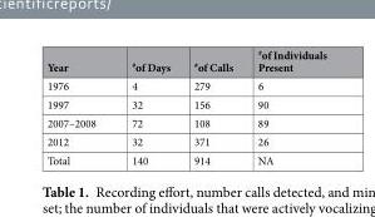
<table><thead><tr><td>Year</td><td><sup>#</sup>of Days</td><td><sup>#</sup>of Calls</td><td><sup>#</sup>of Individuals Present</td></tr></thead><tbody><tr><td>1976</td><td>4</td><td>279</td><td>6</td></tr><tr><td>1997</td><td>32</td><td>156</td><td>90</td></tr><tr><td>2007–2008</td><td>72</td><td>108</td><td>89</td></tr><tr><td>2012</td><td>32</td><td>371</td><td>26</td></tr><tr><td>Total</td><td>140</td><td>914</td><td>NA</td></tr></tbody></table>